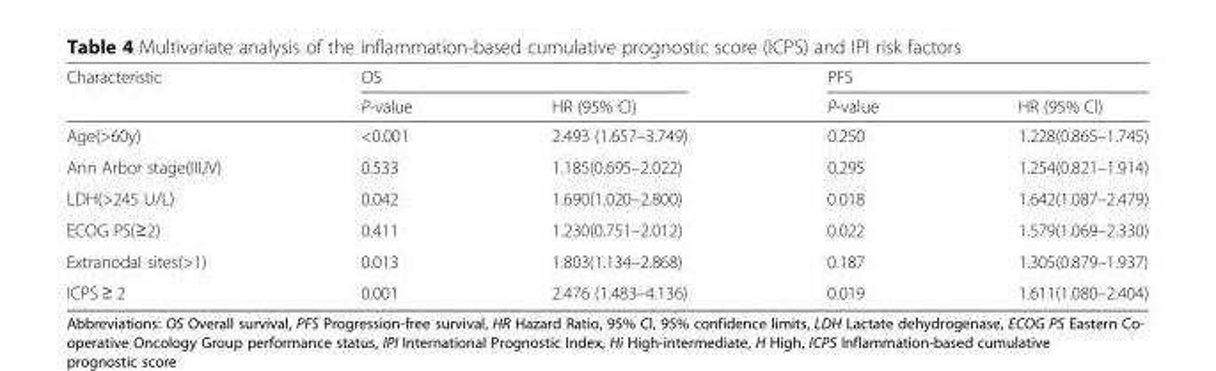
<table><thead><tr><td rowspan="2">Characteristic</td><td colspan="2">OS</td><td colspan="2">PFS</td></tr><tr><td>P-value</td><td>HR (95% Cl)</td><td>P-value</td><td>HR (95% Cl)</td></tr></thead><tbody><tr><td>Age(&gt;60y)</td><td>&lt;0.001</td><td>2.493 (1.657–3.749)</td><td>0.250</td><td>1.228(0.865–1.745)</td></tr><tr><td>Ann Arbor stage(III,IV)</td><td>0.533</td><td>1.185(0.695–2.022)</td><td>0.295</td><td>1.254(0.821–1.914)</td></tr><tr><td>LDH(&gt;245 U/L)</td><td>0.042</td><td>1.690(1.020–2.800)</td><td>0.018</td><td>1.642(1.087–2.479)</td></tr><tr><td>ECOG PS(≥2)</td><td>0.411</td><td>1.230(0.751–2.012)</td><td>0.022</td><td>1.579(1.069–2.330)</td></tr><tr><td>Extranodal sites(&gt;1)</td><td>0.013</td><td>1.803(1.134–2.868)</td><td>0.187</td><td>1.305(0.879–1.937)</td></tr><tr><td>ICPS ≥ 2</td><td>0.001</td><td>2.476 (1.483–4.136)</td><td>0.019</td><td>1.611(1.080–2.404)</td></tr></tbody></table>